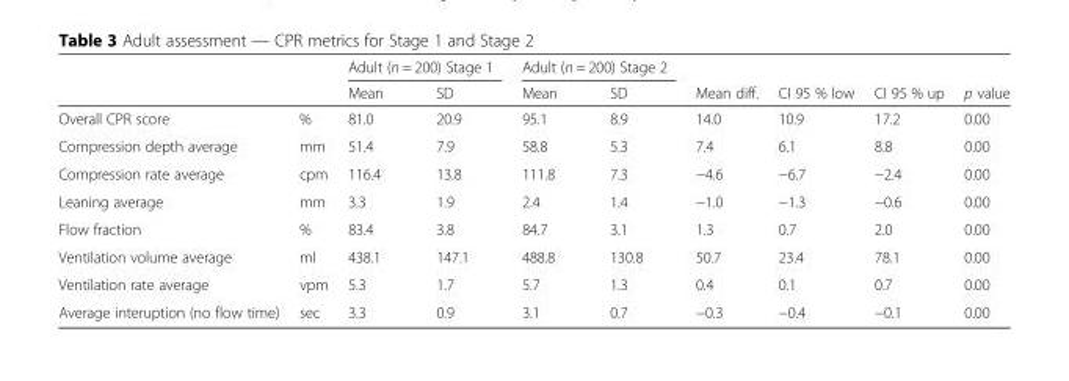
<table><thead><tr><td rowspan="2"></td><td rowspan="2"></td><td colspan="2">Adult (n = 200) Stage 1</td><td colspan="2">Adult (n = 200) Stage 2</td><td rowspan="2">Mean diff.</td><td rowspan="2">CI 95 % low</td><td rowspan="2">CI 95 % up</td><td rowspan="2">p value</td></tr><tr><td>Mean</td><td>SD</td><td>Mean</td><td>SD</td></tr></thead><tbody><tr><td>Overall CPR score</td><td>%</td><td>81.0</td><td>20.9</td><td>95.1</td><td>8.9</td><td>14.0</td><td>10.9</td><td>17.2</td><td>0.00</td></tr><tr><td>Compression depth average</td><td>mm</td><td>51.4</td><td>7.9</td><td>58.8</td><td>5.3</td><td>7.4</td><td>6.1</td><td>8.8</td><td>0.00</td></tr><tr><td>Compression rate average</td><td>cpm</td><td>116.4</td><td>13.8</td><td>111.8</td><td>7.3</td><td>−4.6</td><td>−6.7</td><td>−2.4</td><td>0.00</td></tr><tr><td>Leaning average</td><td>mm</td><td>3.3</td><td>1.9</td><td>2.4</td><td>1.4</td><td>−1.0</td><td>−1.3</td><td>−0.6</td><td>0.00</td></tr><tr><td>Flow fraction</td><td>%</td><td>83.4</td><td>3.8</td><td>84.7</td><td>3.1</td><td>1.3</td><td>0.7</td><td>2.0</td><td>0.00</td></tr><tr><td>Ventilation volume average</td><td>ml</td><td>438.1</td><td>147.1</td><td>488.8</td><td>130.8</td><td>50.7</td><td>23.4</td><td>78.1</td><td>0.00</td></tr><tr><td>Ventilation rate average</td><td>vpm</td><td>5.3</td><td>1.7</td><td>5.7</td><td>1.3</td><td>0.4</td><td>0.1</td><td>0.7</td><td>0.00</td></tr><tr><td>Average interuption (no flow time)</td><td>sec</td><td>3.3</td><td>0.9</td><td>3.1</td><td>0.7</td><td>−0.3</td><td>−0.4</td><td>−0.1</td><td>0.00</td></tr></tbody></table>